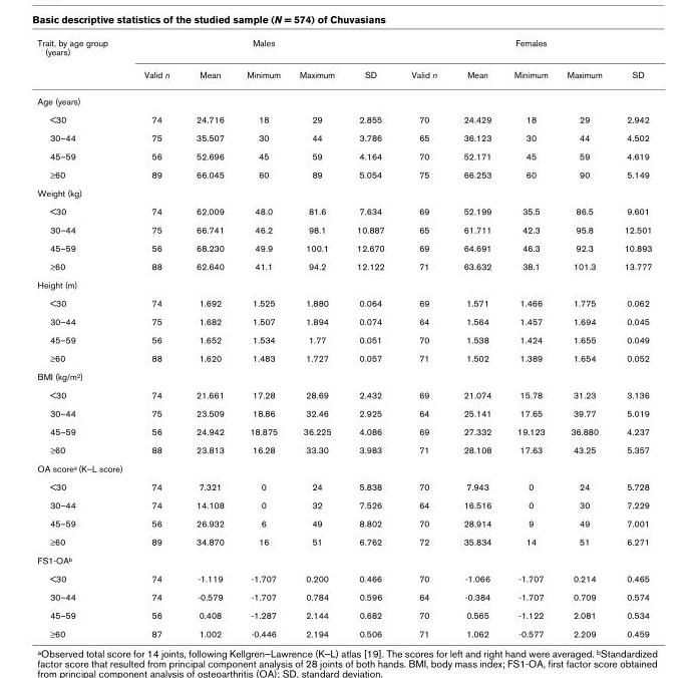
<table><thead><tr><td rowspan="2">Trait, by age group (years)</td><td colspan="5">Males</td><td colspan="5">Females</td></tr><tr><td>Valid n</td><td>Mean</td><td>Minimum</td><td>Maximum</td><td>SD</td><td>Valid n</td><td>Mean</td><td>Minimum</td><td>Maximum</td><td>SD</td></tr></thead><tbody><tr><td colspan="11">Age (years)</td></tr><tr><td>&lt;30</td><td>74</td><td>24.716</td><td>18</td><td>29</td><td>2.855</td><td>70</td><td>24.429</td><td>18</td><td>29</td><td>2.942</td></tr><tr><td>30–44</td><td>75</td><td>35.507</td><td>30</td><td>44</td><td>3.786</td><td>65</td><td>36.123</td><td>30</td><td>44</td><td>4.502</td></tr><tr><td>45–59</td><td>56</td><td>52.696</td><td>45</td><td>59</td><td>4.164</td><td>70</td><td>52.171</td><td>45</td><td>59</td><td>4.619</td></tr><tr><td>≥60</td><td>89</td><td>66.045</td><td>60</td><td>89</td><td>5.054</td><td>75</td><td>66.253</td><td>60</td><td>90</td><td>5.149</td></tr><tr><td colspan="11">Weight (kg)</td></tr><tr><td>&lt;30</td><td>74</td><td>62.009</td><td>48.0</td><td>81.6</td><td>7.634</td><td>69</td><td>52.199</td><td>35.5</td><td>86.5</td><td>9.601</td></tr><tr><td>30–44</td><td>75</td><td>66.741</td><td>46.2</td><td>98.1</td><td>10.887</td><td>65</td><td>61.711</td><td>42.3</td><td>95.8</td><td>12.501</td></tr><tr><td>45–59</td><td>56</td><td>68.230</td><td>49.9</td><td>100.1</td><td>12.670</td><td>69</td><td>64.691</td><td>46.3</td><td>92.3</td><td>10.893</td></tr><tr><td>≥60</td><td>88</td><td>62.640</td><td>41.1</td><td>94.2</td><td>12.122</td><td>71</td><td>63.632</td><td>38.1</td><td>101.3</td><td>13.777</td></tr><tr><td colspan="11">Height (m)</td></tr><tr><td>&lt;30</td><td>74</td><td>1.692</td><td>1.525</td><td>1.880</td><td>0.064</td><td>69</td><td>1.571</td><td>1.466</td><td>1.775</td><td>0.062</td></tr><tr><td>30–44</td><td>75</td><td>1.682</td><td>1.507</td><td>1.894</td><td>0.074</td><td>64</td><td>1.564</td><td>1.457</td><td>1.694</td><td>0.045</td></tr><tr><td>45–59</td><td>56</td><td>1.652</td><td>1.534</td><td>1.77</td><td>0.051</td><td>70</td><td>1.538</td><td>1.424</td><td>1.655</td><td>0.049</td></tr><tr><td>≥60</td><td>88</td><td>1.620</td><td>1.483</td><td>1.727</td><td>0.057</td><td>71</td><td>1.502</td><td>1.389</td><td>1.654</td><td>0.052</td></tr><tr><td colspan="11">BMI (kg/m2)</td></tr><tr><td>&lt;30</td><td>74</td><td>21.661</td><td>17.28</td><td>28.69</td><td>2.432</td><td>69</td><td>21.074</td><td>15.78</td><td>31.23</td><td>3.136</td></tr><tr><td>30–44</td><td>75</td><td>23.509</td><td>18.86</td><td>32.46</td><td>2.925</td><td>64</td><td>25.141</td><td>17.65</td><td>39.77</td><td>5.019</td></tr><tr><td>45–59</td><td>56</td><td>24.942</td><td>18.875</td><td>36.225</td><td>4.086</td><td>69</td><td>27.332</td><td>19.123</td><td>36.880</td><td>4.237</td></tr><tr><td>≥60</td><td>88</td><td>23.813</td><td>16.28</td><td>33.30</td><td>3.983</td><td>71</td><td>28.108</td><td>17.63</td><td>43.25</td><td>5.357</td></tr><tr><td colspan="11">OA scorea (K–L score)</td></tr><tr><td>&lt;30</td><td>74</td><td>7.321</td><td>0</td><td>24</td><td>5.838</td><td>70</td><td>7.943</td><td>0</td><td>24</td><td>5.728</td></tr><tr><td>30–44</td><td>74</td><td>14.108</td><td>0</td><td>32</td><td>7.526</td><td>64</td><td>16.516</td><td>0</td><td>30</td><td>7.229</td></tr><tr><td>45–59</td><td>56</td><td>26.932</td><td>6</td><td>49</td><td>8.802</td><td>70</td><td>28.914</td><td>9</td><td>49</td><td>7.001</td></tr><tr><td>≥60</td><td>89</td><td>34.870</td><td>16</td><td>51</td><td>6.762</td><td>72</td><td>35.834</td><td>14</td><td>51</td><td>6.271</td></tr><tr><td colspan="11">FS1-OAb</td></tr><tr><td>&lt;30</td><td>74</td><td>-1.119</td><td>-1.707</td><td>0.200</td><td>0.466</td><td>70</td><td>-1.066</td><td>-1.707</td><td>0.214</td><td>0.465</td></tr><tr><td>30–44</td><td>74</td><td>-0.579</td><td>-1.707</td><td>0.784</td><td>0.596</td><td>64</td><td>-0.384</td><td>-1.707</td><td>0.709</td><td>0.574</td></tr><tr><td>45–59</td><td>56</td><td>0.408</td><td>-1.287</td><td>2.144</td><td>0.682</td><td>70</td><td>0.565</td><td>-1.122</td><td>2.081</td><td>0.534</td></tr><tr><td>≥60</td><td>87</td><td>1.002</td><td>-0.446</td><td>2.194</td><td>0.506</td><td>71</td><td>1.062</td><td>-0.577</td><td>2.209</td><td>0.459</td></tr></tbody></table>